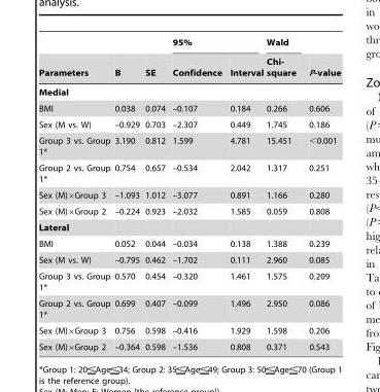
<table><thead><tr><td rowspan="2">Parameters</td><td rowspan="2">B</td><td rowspan="2">SE</td><td colspan="2">95%</td><td rowspan="2">Wald Chi- square</td><td rowspan="2">P-value</td></tr><tr><td>Confidence</td><td>Interval</td></tr></thead><tbody><tr><td colspan="7">Medial</td></tr><tr><td>BMI</td><td>0.038</td><td>0.074</td><td>–0.107</td><td>0.184</td><td>0.266</td><td>0.606</td></tr><tr><td>Sex (M vs. W)</td><td>–0.929</td><td>0.703</td><td>–2.307</td><td>0.449</td><td>1.745</td><td>0.186</td></tr><tr><td>Group 3 vs. Group 1*</td><td>3.190</td><td>0.812</td><td>1.599</td><td>4.781</td><td>15.451</td><td>&lt;0.001</td></tr><tr><td>Group 2 vs. Group 1*</td><td>0.754</td><td>0.657</td><td>–0.534</td><td>2.042</td><td>1.317</td><td>0.251</td></tr><tr><td>Sex (M)×Group 3</td><td>–1.093</td><td>1.012</td><td>–3.077</td><td>0.891</td><td>1.166</td><td>0.280</td></tr><tr><td>Sex (M)×Group 2</td><td>–0.224</td><td>0.923</td><td>–2.032</td><td>1.585</td><td>0.059</td><td>0.808</td></tr><tr><td colspan="7">Lateral</td></tr><tr><td>BMI</td><td>0.052</td><td>0.044</td><td>–0.034</td><td>0.138</td><td>1.388</td><td>0.239</td></tr><tr><td>Sex (M vs. W)</td><td>–0.795</td><td>0.462</td><td>–1.702</td><td>0.111</td><td>2.960</td><td>0.085</td></tr><tr><td>Group 3 vs. Group 1*</td><td>0.570</td><td>0.454</td><td>–0.320</td><td>1.461</td><td>1.575</td><td>0.209</td></tr><tr><td>Group 2 vs. Group 1*</td><td>0.699</td><td>0.407</td><td>–0.099</td><td>1.496</td><td>2.950</td><td>0.086</td></tr><tr><td>Sex (M)×Group 3</td><td>0.756</td><td>0.598</td><td>–0.416</td><td>1.929</td><td>1.598</td><td>0.206</td></tr><tr><td>Sex (M)×Group 2</td><td>–0.364</td><td>0.598</td><td>–1.536</td><td>0.808</td><td>0.371</td><td>0.543</td></tr></tbody></table>